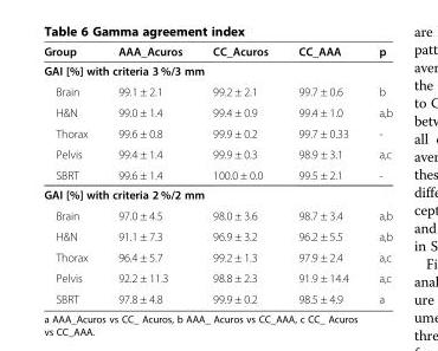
<table><thead><tr><td>Group</td><td>AAA_Acuros</td><td>CC_Acuros</td><td>CC_AAA</td><td>p</td></tr></thead><tbody><tr><td colspan="5">GAI [%] with criteria 3 %/3 mm</td></tr><tr><td>Brain</td><td>99.1 ± 2.1</td><td>99.2 ± 2.1</td><td>99.7 ± 0.6</td><td>b</td></tr><tr><td>H&amp;N</td><td>99.0 ± 1.4</td><td>99.4 ± 0.9</td><td>99.4 ± 1.0</td><td>a,b</td></tr><tr><td>Thorax</td><td>99.6 ± 0.8</td><td>99.9 ± 0.2</td><td>99.7 ± 0.33</td><td>-</td></tr><tr><td>Pelvis</td><td>99.4 ± 1.4</td><td>99.9 ± 0.3</td><td>98.9 ± 3.1</td><td>a,c</td></tr><tr><td>SBRT</td><td>99.6 ± 1.4</td><td>100.0 ± 0.0</td><td>99.5 ± 2.1</td><td>-</td></tr><tr><td colspan="5">GAI [%] with criteria 2 %/2 mm</td></tr><tr><td>Brain</td><td>97.0 ± 4.5</td><td>98.0 ± 3.6</td><td>98.7 ± 3.4</td><td>a,b</td></tr><tr><td>H&amp;N</td><td>91.1 ± 7.3</td><td>96.9 ± 3.2</td><td>96.2 ± 5.5</td><td>a,b</td></tr><tr><td>Thorax</td><td>96.4 ± 5.7</td><td>99.2 ± 1.3</td><td>97.9 ± 2.4</td><td>a,c</td></tr><tr><td>Pelvis</td><td>92.2 ± 11.3</td><td>98.8 ± 2.3</td><td>91.9 ± 14.4</td><td>a,c</td></tr><tr><td>SBRT</td><td>97.8 ± 4.8</td><td>99.9 ± 0.2</td><td>98.5 ± 4.9</td><td>a</td></tr></tbody></table>